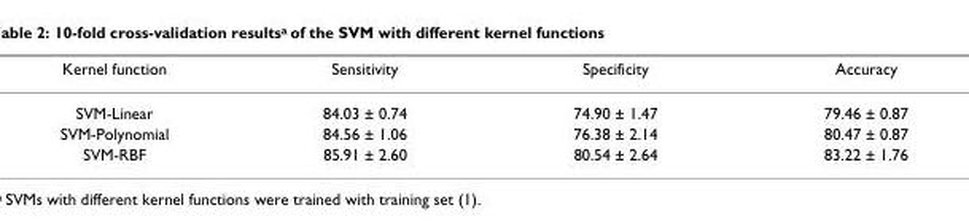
<table><thead><tr><td>Kernel function</td><td>Sensitivity</td><td>Specificity</td><td>Accuracy</td></tr></thead><tbody><tr><td>SVM-Linear</td><td>84.03 ± 0.74</td><td>74.90 ± 1.47</td><td>79.46 ± 0.87</td></tr><tr><td>SVM-Polynomial</td><td>84.56 ± 1.06</td><td>76.38 ± 2.14</td><td>80.47 ± 0.87</td></tr><tr><td>SVM-RBF</td><td>85.91 ± 2.60</td><td>80.54 ± 2.64</td><td>83.22 ± 1.76</td></tr></tbody></table>